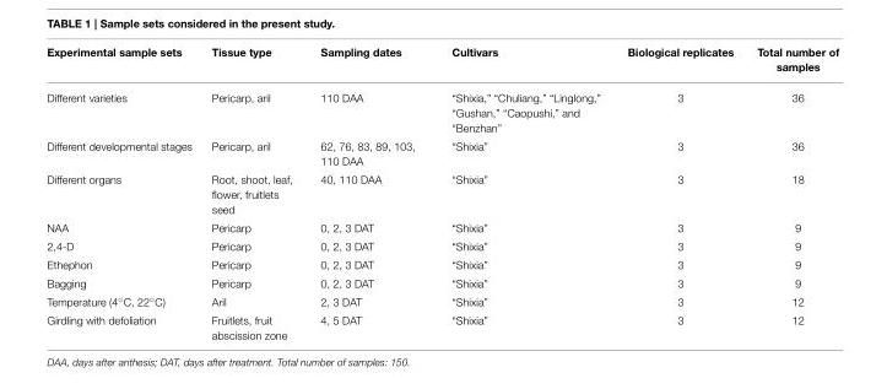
<table><thead><tr><td>Experimental sample sets</td><td>Tissue type</td><td>Sampling dates</td><td>Cultivars</td><td>Biological replicates</td><td>Total number of samples</td></tr></thead><tbody><tr><td>Different varieties</td><td>Pericarp, aril</td><td>110 DAA</td><td>“Shixia,” “Chuliang,” “Linglong,” “Gushan,” “Caopushi,” and “Benzhan”</td><td>3</td><td>36</td></tr><tr><td>Different developmental stages</td><td>Pericarp, aril</td><td>62, 76, 83, 89, 103, 110 DAA</td><td>“Shixia”</td><td>3</td><td>36</td></tr><tr><td>Different organs</td><td>Root, shoot, leaf, flower, fruitlets seed</td><td>40, 110 DAA</td><td>“Shixia”</td><td>3</td><td>18</td></tr><tr><td>NAA</td><td>Pericarp</td><td>0, 2, 3 DAT</td><td>“Shixia”</td><td>3</td><td>9</td></tr><tr><td>2,4-D</td><td>Pericarp</td><td>0, 2, 3 DAT</td><td>“Shixia”</td><td>3</td><td>9</td></tr><tr><td>Ethephon</td><td>Pericarp</td><td>0, 2, 3 DAT</td><td>“Shixia”</td><td>3</td><td>9</td></tr><tr><td>Bagging</td><td>Pericarp</td><td>0, 2, 3 DAT</td><td>“Shixia”</td><td>3</td><td>9</td></tr><tr><td>Temperature (4◦C, 22◦C)</td><td>Aril</td><td>2, 3 DAT</td><td>“Shixia”</td><td>3</td><td>12</td></tr><tr><td>Girdling with defoliation</td><td>Fruitlets, fruit abscission zone</td><td>4, 5 DAT</td><td>“Shixia”</td><td>3</td><td>12</td></tr></tbody></table>